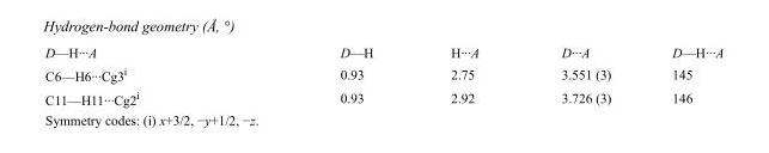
<table><tbody><tr><td>D—H···A</td><td>D—H</td><td>H···A</td><td>D···A</td><td>D—H···A</td></tr><tr><td>C6—H6···Cg3<sup>i</sup></td><td>0.93</td><td>2.75</td><td>3.551 (3)</td><td>145</td></tr><tr><td>C11—H11···Cg2<sup>i</sup></td><td>0.93</td><td>2.92</td><td>3.726 (3)</td><td>146</td></tr></tbody></table>